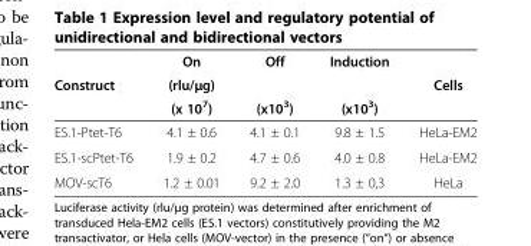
<table><thead><tr><td rowspan="3">Construct</td><td rowspan="3">On (rlu/μg) (x 10<sup>7</sup>)</td><td rowspan="3">Off (x10<sup>3</sup>)</td><td rowspan="3">Induction (x10<sup>3</sup>)</td><td rowspan="3">Cells</td></tr><tr></tr><tr></tr></thead><tbody><tr><td>ES.1-Ptet-T6</td><td>4.1 ± 0.6</td><td>4.1 ± 0.1</td><td>9.8 ± 1.5</td><td>HeLa-EM2</td></tr><tr><td>ES.1-scPtet-T6</td><td>1.9 ± 0.2</td><td>4.7 ± 0.6</td><td>4.0 ± 0.8</td><td>HeLa-EM2</td></tr><tr><td>MOV-scT6</td><td>1.2 ± 0.01</td><td>9.2 ± 2.0</td><td>1.3 ± 0,3</td><td>HeLa</td></tr></tbody></table>